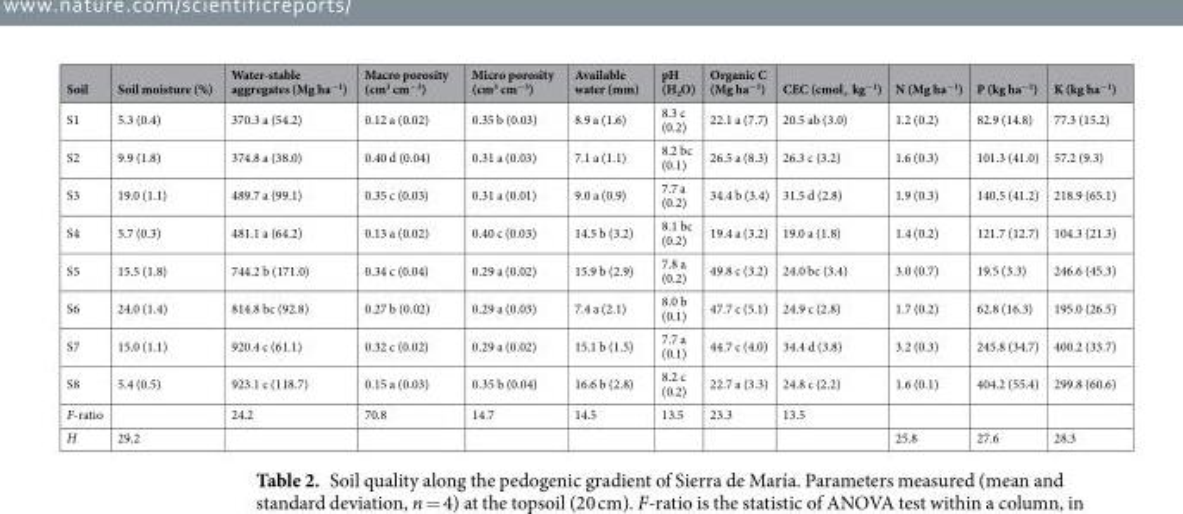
<table><thead><tr><td>Soil</td><td>Soil moisture (%)</td><td>Water-stable aggregates (Mg ha<sup>−1</sup>)</td><td>Macro porosity (cm<sup>3</sup> cm<sup>−3</sup>)</td><td>Micro porosity (cm<sup>3</sup> cm<sup>−3</sup>)</td><td>Available water (mm)</td><td>pH (H<sub>2</sub>O)</td><td>Organic C (Mg ha<sup>−1</sup>)</td><td>CEC (cmol<sub>+</sub> kg<sup>−1</sup>)</td><td>N (Mg ha<sup>−1</sup>)</td><td>P (kg ha<sup>−1</sup>)</td><td>K (kg ha<sup>−1</sup>)</td></tr></thead><tbody><tr><td>S1</td><td>5.3 (0.4)</td><td>370.3 a (54.2)</td><td>0.12 a (0.02)</td><td>0.35 b (0.03)</td><td>8.9 a (1.6)</td><td>8.3 c (0.2)</td><td>22.1 a (7.7)</td><td>20.5 ab (3.0)</td><td>1.2 (0.2)</td><td>82.9 (14.8)</td><td>77.3 (15.2)</td></tr><tr><td>S2</td><td>9.9 (1.8)</td><td>374.8 a (38.0)</td><td>0.40 d (0.04)</td><td>0.31 a (0.03)</td><td>7.1 a (1.1)</td><td>8.2 bc (0.1)</td><td>26.5 a (8.3)</td><td>26.3 c (3.2)</td><td>1.6 (0.3)</td><td>101.3 (41.0)</td><td>57.2 (9.3)</td></tr><tr><td>S3</td><td>19.0 (1.1)</td><td>489.7 a (99.1)</td><td>0.35 c (0.03)</td><td>0.31 a (0.01)</td><td>9.0 a (0.9)</td><td>7.7 a (0.2)</td><td>34.4 b (3.4)</td><td>31.5 d (2.8)</td><td>1.9 (0.3)</td><td>140.5 (41.2)</td><td>218.9 (65.1)</td></tr><tr><td>S4</td><td>5.7 (0.3)</td><td>481.1 a (64.2)</td><td>0.13 a (0.02)</td><td>0.40 c (0.03)</td><td>14.5 b (3.2)</td><td>8.1 bc (0.2)</td><td>19.4 a (3.2)</td><td>19.0 a (1.8)</td><td>1.4 (0.2)</td><td>121.7 (12.7)</td><td>104.3 (21.3)</td></tr><tr><td>S5</td><td>15.5 (1.8)</td><td>744.2 b (171.0)</td><td>0.34 c (0.04)</td><td>0.29 a (0.02)</td><td>15.9 b (2.9)</td><td>7.8 a (0.2)</td><td>49.8 c (3.2)</td><td>24.0 bc (3.4)</td><td>3.0 (0.7)</td><td>19.5 (3.3)</td><td>246.6 (45.3)</td></tr><tr><td>S6</td><td>24.0 (1.4)</td><td>814.8 bc (92.8)</td><td>0.27 b (0.02)</td><td>0.29 a (0.03)</td><td>7.4 a (2.1)</td><td>8.0 b (0.1)</td><td>47.7 c (5.1)</td><td>24.9 c (2.8)</td><td>1.7 (0.2)</td><td>62.8 (16.3)</td><td>195.0 (26.5)</td></tr><tr><td>S7</td><td>15.0 (1.1)</td><td>920.4 c (61.1)</td><td>0.32 c (0.02)</td><td>0.29 a (0.02)</td><td>15.1 b (1.5)</td><td>7.7 a (0.1)</td><td>44.7 c (4.0)</td><td>34.4 d (3.8)</td><td>3.2 (0.3)</td><td>245.8 (34.7)</td><td>400.2 (33.7)</td></tr><tr><td>S8</td><td>5.4 (0.5)</td><td>923.1 c (118.7)</td><td>0.15 a (0.03)</td><td>0.35 b (0.04)</td><td>16.6 b (2.8)</td><td>8.2 c (0.2)</td><td>22.7 a (3.3)</td><td>24.8 c (2.2)</td><td>1.6 (0.1)</td><td>404.2 (55.4)</td><td>299.8 (60.6)</td></tr><tr><td>F-ratio</td><td></td><td>24.2</td><td>70.8</td><td>14.7</td><td>14.5</td><td>13.5</td><td>23.3</td><td>13.5</td><td></td><td></td><td></td></tr><tr><td>H</td><td>29.2</td><td></td><td></td><td></td><td></td><td></td><td></td><td></td><td>25.8</td><td>27.6</td><td>28.3</td></tr></tbody></table>